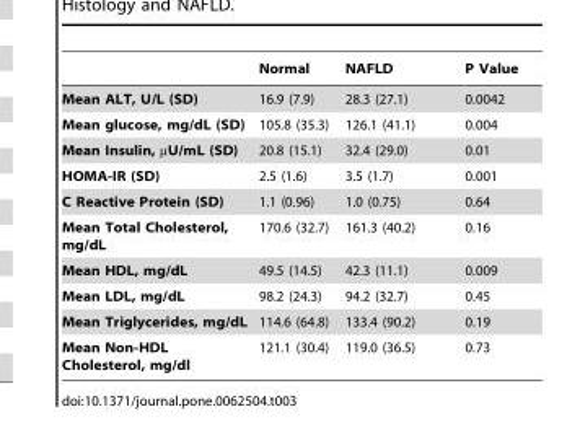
<table><thead><tr><td></td><td>Normal</td><td>NAFLD</td><td>P Value</td></tr></thead><tbody><tr><td>Mean ALT, U/L (SD)</td><td>16.9 (7.9)</td><td>28.3 (27.1)</td><td>0.0042</td></tr><tr><td>Mean glucose, mg/dL (SD)</td><td>105.8 (35.3)</td><td>126.1 (41.1)</td><td>0.004</td></tr><tr><td>Mean Insulin, µU/mL (SD)</td><td>20.8 (15.1)</td><td>32.4 (29.0)</td><td>0.01</td></tr><tr><td>HOMA-IR (SD)</td><td>2.5 (1.6)</td><td>3.5 (1.7)</td><td>0.001</td></tr><tr><td>C Reactive Protein (SD)</td><td>1.1 (0.96)</td><td>1.0 (0.75)</td><td>0.64</td></tr><tr><td>Mean Total Cholesterol, mg/dL</td><td>170.6 (32.7)</td><td>161.3 (40.2)</td><td>0.16</td></tr><tr><td>Mean HDL, mg/dL</td><td>49.5 (14.5)</td><td>42.3 (11.1)</td><td>0.009</td></tr><tr><td>Mean LDL, mg/dL</td><td>98.2 (24.3)</td><td>94.2 (32.7)</td><td>0.45</td></tr><tr><td>Mean Triglycerides, mg/dL</td><td>114.6 (64.8)</td><td>133.4 (90.2)</td><td>0.19</td></tr><tr><td>Mean Non-HDL Cholesterol, mg/dl</td><td>121.1 (30.4)</td><td>119.0 (36.5)</td><td>0.73</td></tr></tbody></table>